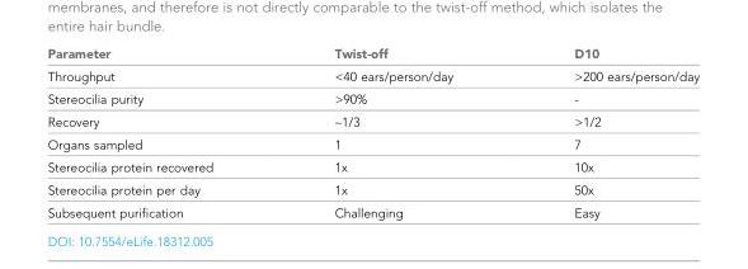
<table><thead><tr><td>Parameter</td><td>Twist-off</td><td>D10</td></tr></thead><tbody><tr><td>Throughput</td><td>&lt;40 ears/person/day</td><td>&gt;200 ears/person/day</td></tr><tr><td>Stereocilia purity</td><td>&gt;90%</td><td>-</td></tr><tr><td>Recovery</td><td>~1/3</td><td>&gt;1/2</td></tr><tr><td>Organs sampled</td><td>1</td><td>7</td></tr><tr><td>Stereocilia protein recovered</td><td>1x</td><td>10x</td></tr><tr><td>Stereocilia protein per day</td><td>1x</td><td>50x</td></tr><tr><td>Subsequent purification</td><td>Challenging</td><td>Easy</td></tr></tbody></table>